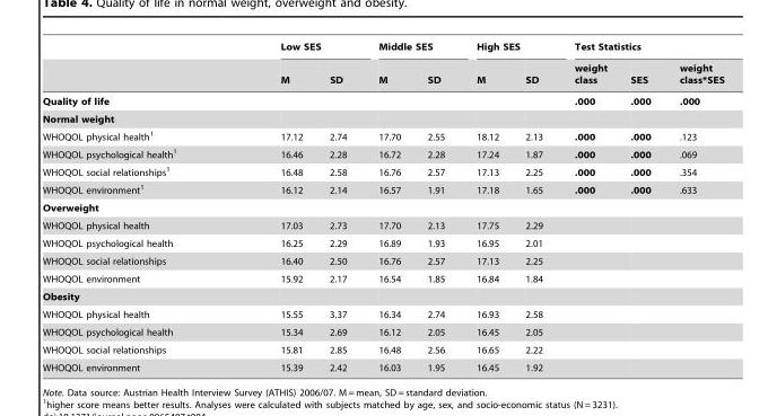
<table><thead><tr><td rowspan="2"></td><td colspan="2">Low SES</td><td colspan="2">Middle SES</td><td colspan="2">High SES</td><td colspan="3">Test Statistics</td></tr><tr><td>M</td><td>SD</td><td>M</td><td>SD</td><td>M</td><td>SD</td><td>weight class</td><td>SES</td><td>weight class*SES</td></tr></thead><tbody><tr><td>Quality of life</td><td></td><td></td><td></td><td></td><td></td><td></td><td>.000</td><td>.000</td><td>.000</td></tr><tr><td colspan="10">Normal weight</td></tr><tr><td>WHOQOL physical health<sup>1</sup></td><td>17.12</td><td>2.74</td><td>17.70</td><td>2.55</td><td>18.12</td><td>2.13</td><td>.000</td><td>.000</td><td>.123</td></tr><tr><td>WHOQOL psychological health<sup>1</sup></td><td>16.46</td><td>2.28</td><td>16.72</td><td>2.28</td><td>17.24</td><td>1.87</td><td>.000</td><td>.000</td><td>.069</td></tr><tr><td>WHOQOL social relationships<sup>1</sup></td><td>16.48</td><td>2.58</td><td>16.76</td><td>2.57</td><td>17.13</td><td>2.25</td><td>.000</td><td>.000</td><td>.354</td></tr><tr><td>WHOQOL environment<sup>1</sup></td><td>16.12</td><td>2.14</td><td>16.57</td><td>1.91</td><td>17.18</td><td>1.65</td><td>.000</td><td>.000</td><td>.633</td></tr><tr><td colspan="10">Overweight</td></tr><tr><td>WHOQOL physical health</td><td>17.03</td><td>2.73</td><td>17.70</td><td>2.13</td><td>17.75</td><td>2.29</td><td></td><td></td><td></td></tr><tr><td>WHOQOL psychological health</td><td>16.25</td><td>2.29</td><td>16.89</td><td>1.93</td><td>16.95</td><td>2.01</td><td></td><td></td><td></td></tr><tr><td>WHOQOL social relationships</td><td>16.40</td><td>2.50</td><td>16.76</td><td>2.57</td><td>17.13</td><td>2.25</td><td></td><td></td><td></td></tr><tr><td>WHOQOL environment</td><td>15.92</td><td>2.17</td><td>16.54</td><td>1.85</td><td>16.84</td><td>1.84</td><td></td><td></td><td></td></tr><tr><td colspan="10">Obesity</td></tr><tr><td>WHOQOL physical health</td><td>15.55</td><td>3.37</td><td>16.34</td><td>2.74</td><td>16.93</td><td>2.58</td><td></td><td></td><td></td></tr><tr><td>WHOQOL psychological health</td><td>15.34</td><td>2.69</td><td>16.12</td><td>2.05</td><td>16.45</td><td>2.05</td><td></td><td></td><td></td></tr><tr><td>WHOQOL social relationships</td><td>15.81</td><td>2.85</td><td>16.48</td><td>2.56</td><td>16.65</td><td>2.22</td><td></td><td></td><td></td></tr><tr><td>WHOQOL environment</td><td>15.39</td><td>2.42</td><td>16.03</td><td>1.95</td><td>16.45</td><td>1.92</td><td></td><td></td><td></td></tr></tbody></table>